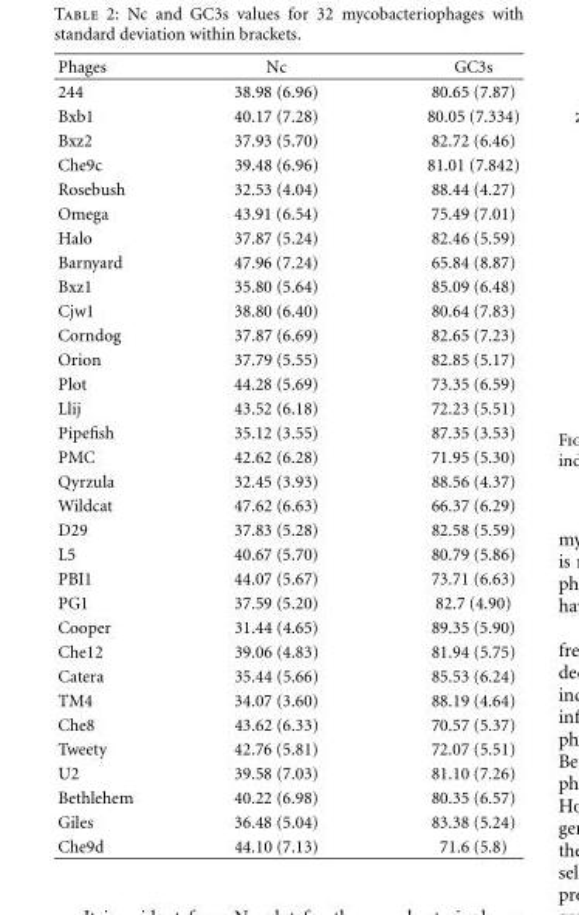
<table><thead><tr><td>Phages</td><td>Nc</td><td>GC3s</td></tr></thead><tbody><tr><td>244</td><td>38.98 (6.96)</td><td>80.65 (7.87)</td></tr><tr><td>Bxb1</td><td>40.17 (7.28)</td><td>80.05 (7.334)</td></tr><tr><td>Bxz2</td><td>37.93 (5.70)</td><td>82.72 (6.46)</td></tr><tr><td>Che9c</td><td>39.48 (6.96)</td><td>81.01 (7.842)</td></tr><tr><td>Rosebush</td><td>32.53 (4.04)</td><td>88.44 (4.27)</td></tr><tr><td>Omega</td><td>43.91 (6.54)</td><td>75.49 (7.01)</td></tr><tr><td>Halo</td><td>37.87 (5.24)</td><td>82.46 (5.59)</td></tr><tr><td>Barnyard</td><td>47.96 (7.24)</td><td>65.84 (8.87)</td></tr><tr><td>Bxz1</td><td>35.80 (5.64)</td><td>85.09 (6.48)</td></tr><tr><td>Cjw1</td><td>38.80 (6.40)</td><td>80.64 (7.83)</td></tr><tr><td>Corndog</td><td>37.87 (6.69)</td><td>82.65 (7.23)</td></tr><tr><td>Orion</td><td>37.79 (5.55)</td><td>82.85 (5.17)</td></tr><tr><td>Plot</td><td>44.28 (5.69)</td><td>73.35 (6.59)</td></tr><tr><td>Llij</td><td>43.52 (6.18)</td><td>72.23 (5.51)</td></tr><tr><td>Pipefish</td><td>35.12 (3.55)</td><td>87.35 (3.53)</td></tr><tr><td>PMC</td><td>42.62 (6.28)</td><td>71.95 (5.30)</td></tr><tr><td>Qyrzula</td><td>32.45 (3.93)</td><td>88.56 (4.37)</td></tr><tr><td>Wildcat</td><td>47.62 (6.63)</td><td>66.37 (6.29)</td></tr><tr><td>D29</td><td>37.83 (5.28)</td><td>82.58 (5.59)</td></tr><tr><td>L5</td><td>40.67 (5.70)</td><td>80.79 (5.86)</td></tr><tr><td>PBI1</td><td>44.07 (5.67)</td><td>73.71 (6.63)</td></tr><tr><td>PG1</td><td>37.59 (5.20)</td><td>82.7 (4.90)</td></tr><tr><td>Cooper</td><td>31.44 (4.65)</td><td>89.35 (5.90)</td></tr><tr><td>Che12</td><td>39.06 (4.83)</td><td>81.94 (5.75)</td></tr><tr><td>Catera</td><td>35.44 (5.66)</td><td>85.53 (6.24)</td></tr><tr><td>TM4</td><td>34.07 (3.60)</td><td>88.19 (4.64)</td></tr><tr><td>Che8</td><td>43.62 (6.33)</td><td>70.57 (5.37)</td></tr><tr><td>Tweety</td><td>42.76 (5.81)</td><td>72.07 (5.51)</td></tr><tr><td>U2</td><td>39.58 (7.03)</td><td>81.10 (7.26)</td></tr><tr><td>Bethlehem</td><td>40.22 (6.98)</td><td>80.35 (6.57)</td></tr><tr><td>Giles</td><td>36.48 (5.04)</td><td>83.38 (5.24)</td></tr><tr><td>Che9d</td><td>44.10 (7.13)</td><td>71.6 (5.8)</td></tr></tbody></table>